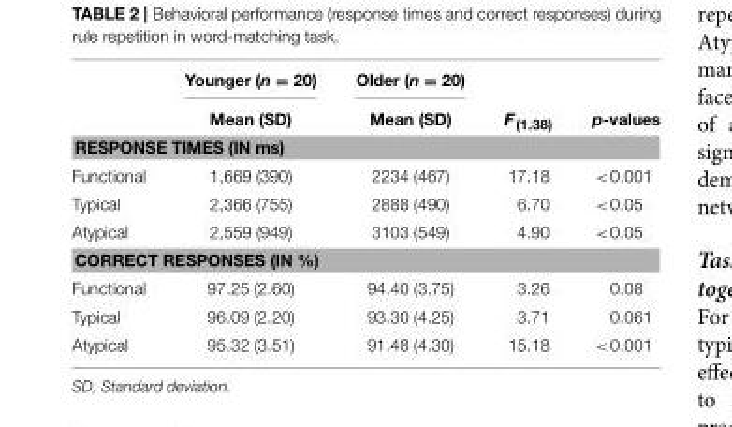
<table><thead><tr><td rowspan="2"></td><td rowspan="2">Younger (n = 20) Mean (SD)</td><td rowspan="2">Older (n = 20) Mean (SD)</td><td rowspan="2">F<sub>(1.38)</sub></td><td rowspan="2">p-values</td></tr><tr></tr></thead><tbody><tr><td colspan="5">RESPONSE TIMES (IN ms)</td></tr><tr><td>Functional</td><td>1,669 (390)</td><td>2234 (467)</td><td>17.18</td><td>&lt;0.001</td></tr><tr><td>Typical</td><td>2,366 (755)</td><td>2888 (490)</td><td>6.70</td><td>&lt;0.05</td></tr><tr><td>Atypical</td><td>2,559 (949)</td><td>3103 (549)</td><td>4.90</td><td>&lt;0.05</td></tr><tr><td colspan="5">CORRECT RESPONSES (IN %)</td></tr><tr><td>Functional</td><td>97.25 (2.60)</td><td>94.40 (3.75)</td><td>3.26</td><td>0.08</td></tr><tr><td>Typical</td><td>96.09 (2.20)</td><td>93.30 (4.25)</td><td>3.71</td><td>0.061</td></tr><tr><td>Atypical</td><td>95.32 (3.51)</td><td>91.48 (4.30)</td><td>15.18</td><td>&lt;0.001</td></tr></tbody></table>